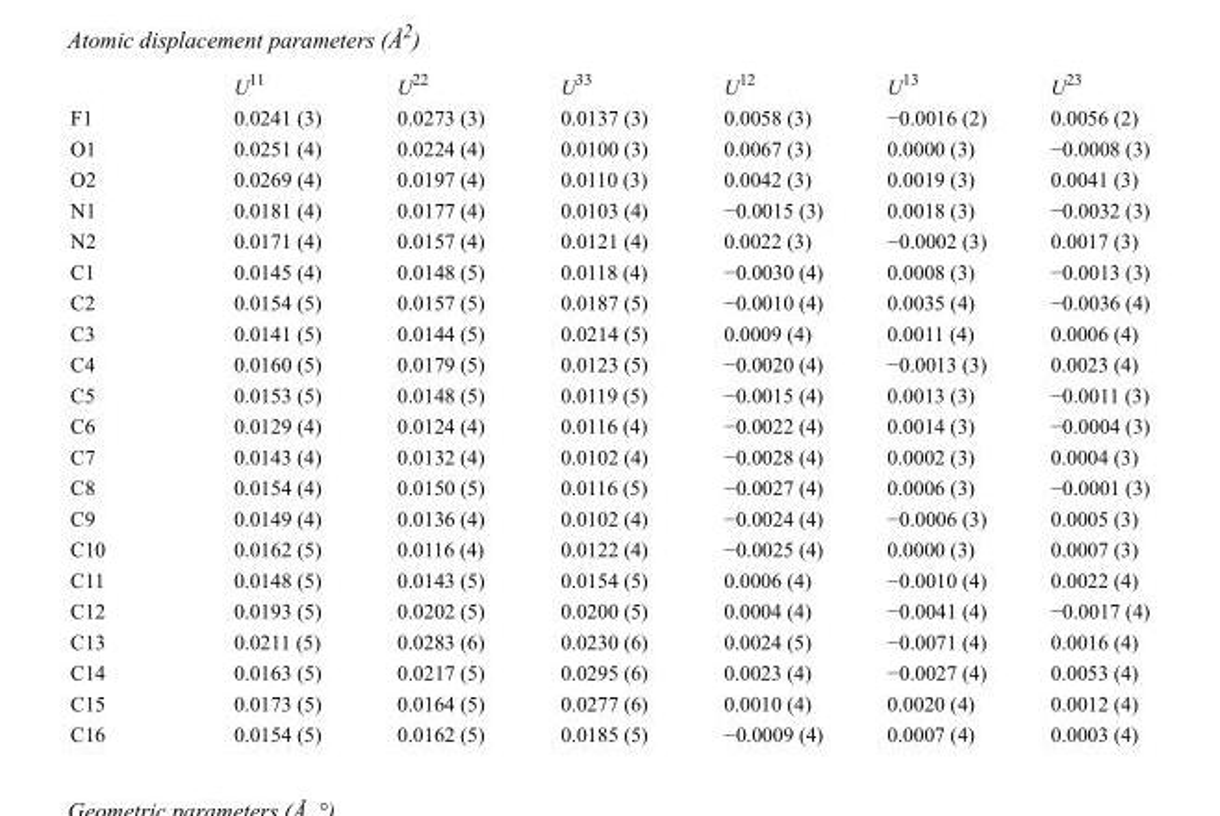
<table><thead><tr><td></td><td>U<sup>11</sup></td><td>U<sup>22</sup></td><td>U<sup>33</sup></td><td>U<sup>12</sup></td><td>U<sup>13</sup></td><td>U<sup>23</sup></td></tr></thead><tbody><tr><td>F1</td><td>0.0241 (3)</td><td>0.0273 (3)</td><td>0.0137 (3)</td><td>0.0058 (3)</td><td>−0.0016 (2)</td><td>0.0056 (2)</td></tr><tr><td>O1</td><td>0.0251 (4)</td><td>0.0224 (4)</td><td>0.0100 (3)</td><td>0.0067 (3)</td><td>0.0000 (3)</td><td>−0.0008 (3)</td></tr><tr><td>O2</td><td>0.0269 (4)</td><td>0.0197 (4)</td><td>0.0110 (3)</td><td>0.0042 (3)</td><td>0.0019 (3)</td><td>0.0041 (3)</td></tr><tr><td>N1</td><td>0.0181 (4)</td><td>0.0177 (4)</td><td>0.0103 (4)</td><td>−0.0015 (3)</td><td>0.0018 (3)</td><td>−0.0032 (3)</td></tr><tr><td>N2</td><td>0.0171 (4)</td><td>0.0157 (4)</td><td>0.0121 (4)</td><td>0.0022 (3)</td><td>−0.0002 (3)</td><td>0.0017 (3)</td></tr><tr><td>C1</td><td>0.0145 (4)</td><td>0.0148 (5)</td><td>0.0118 (4)</td><td>−0.0030 (4)</td><td>0.0008 (3)</td><td>−0.0013 (3)</td></tr><tr><td>C2</td><td>0.0154 (5)</td><td>0.0157 (5)</td><td>0.0187 (5)</td><td>−0.0010 (4)</td><td>0.0035 (4)</td><td>−0.0036 (4)</td></tr><tr><td>C3</td><td>0.0141 (5)</td><td>0.0144 (5)</td><td>0.0214 (5)</td><td>0.0009 (4)</td><td>0.0011 (4)</td><td>0.0006 (4)</td></tr><tr><td>C4</td><td>0.0160 (5)</td><td>0.0179 (5)</td><td>0.0123 (5)</td><td>−0.0020 (4)</td><td>−0.0013 (3)</td><td>0.0023 (4)</td></tr><tr><td>C5</td><td>0.0153 (5)</td><td>0.0148 (5)</td><td>0.0119 (5)</td><td>−0.0015 (4)</td><td>0.0013 (3)</td><td>−0.0011 (3)</td></tr><tr><td>C6</td><td>0.0129 (4)</td><td>0.0124 (4)</td><td>0.0116 (4)</td><td>−0.0022 (4)</td><td>0.0014 (3)</td><td>−0.0004 (3)</td></tr><tr><td>C7</td><td>0.0143 (4)</td><td>0.0132 (4)</td><td>0.0102 (4)</td><td>−0.0028 (4)</td><td>0.0002 (3)</td><td>0.0004 (3)</td></tr><tr><td>C8</td><td>0.0154 (4)</td><td>0.0150 (5)</td><td>0.0116 (5)</td><td>−0.0027 (4)</td><td>0.0006 (3)</td><td>−0.0001 (3)</td></tr><tr><td>C9</td><td>0.0149 (4)</td><td>0.0136 (4)</td><td>0.0102 (4)</td><td>−0.0024 (4)</td><td>−0.0006 (3)</td><td>0.0005 (3)</td></tr><tr><td>C10</td><td>0.0162 (5)</td><td>0.0116 (4)</td><td>0.0122 (4)</td><td>−0.0025 (4)</td><td>0.0000 (3)</td><td>0.0007 (3)</td></tr><tr><td>C11</td><td>0.0148 (5)</td><td>0.0143 (5)</td><td>0.0154 (5)</td><td>0.0006 (4)</td><td>−0.0010 (4)</td><td>0.0022 (4)</td></tr><tr><td>C12</td><td>0.0193 (5)</td><td>0.0202 (5)</td><td>0.0200 (5)</td><td>0.0004 (4)</td><td>−0.0041 (4)</td><td>−0.0017 (4)</td></tr><tr><td>C13</td><td>0.0211 (5)</td><td>0.0283 (6)</td><td>0.0230 (6)</td><td>0.0024 (5)</td><td>−0.0071 (4)</td><td>0.0016 (4)</td></tr><tr><td>C14</td><td>0.0163 (5)</td><td>0.0217 (5)</td><td>0.0295 (6)</td><td>0.0023 (4)</td><td>−0.0027 (4)</td><td>0.0053 (4)</td></tr><tr><td>C15</td><td>0.0173 (5)</td><td>0.0164 (5)</td><td>0.0277 (6)</td><td>0.0010 (4)</td><td>0.0020 (4)</td><td>0.0012 (4)</td></tr><tr><td>C16</td><td>0.0154 (5)</td><td>0.0162 (5)</td><td>0.0185 (5)</td><td>−0.0009 (4)</td><td>0.0007 (4)</td><td>0.0003 (4)</td></tr></tbody></table>